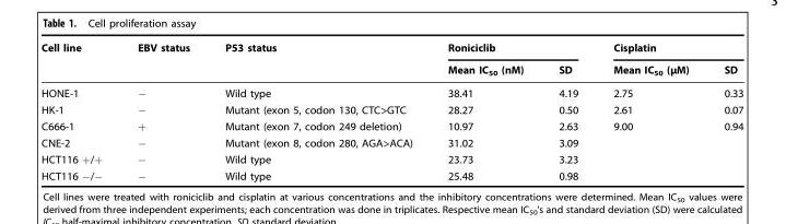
<table><thead><tr><td rowspan="2">Cell line</td><td rowspan="2">EBV status</td><td rowspan="2">P53 status</td><td colspan="2">Roniciclib</td><td colspan="2">Cisplatin</td></tr><tr><td>Mean IC<sub>50</sub> (nM)</td><td>SD</td><td>Mean IC<sub>50</sub> (μM)</td><td>SD</td></tr></thead><tbody><tr><td>HONE-1</td><td>−</td><td>Wild type</td><td>38.41</td><td>4.19</td><td>2.75</td><td>0.33</td></tr><tr><td>HK-1</td><td>−</td><td>Mutant (exon 5, codon 130, CTC&gt;GTC</td><td>28.27</td><td>0.50</td><td>2.61</td><td>0.07</td></tr><tr><td>C666-1</td><td>+</td><td>Mutant (exon 7, codon 249 deletion)</td><td>10.97</td><td>2.63</td><td>9.00</td><td>0.94</td></tr><tr><td>CNE-2</td><td>−</td><td>Mutant (exon 8, codon 280, AGA&gt;ACA)</td><td>31.02</td><td>3.09</td><td></td><td></td></tr><tr><td>HCT116 +/+</td><td>−</td><td>Wild type</td><td>23.73</td><td>3.23</td><td></td><td></td></tr><tr><td>HCT116 −/−</td><td>−</td><td>Wild type</td><td>25.48</td><td>0.98</td><td></td><td></td></tr></tbody></table>